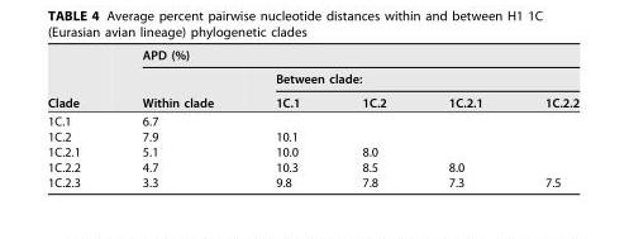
<table><thead><tr><td rowspan="3">Clade</td><td colspan="5">APD (%)</td></tr><tr><td rowspan="2">Within clade</td><td colspan="4">Between clade:</td></tr><tr><td>1C.1</td><td>1C.2</td><td>1C.2.1</td><td>1C.2.2</td></tr></thead><tbody><tr><td>1C.1</td><td>6.7</td><td></td><td></td><td></td><td></td></tr><tr><td>1C.2</td><td>7.9</td><td>10.1</td><td></td><td></td><td></td></tr><tr><td>1C.2.1</td><td>5.1</td><td>10.0</td><td>8.0</td><td></td><td></td></tr><tr><td>1C.2.2</td><td>4.7</td><td>10.3</td><td>8.5</td><td>8.0</td><td></td></tr><tr><td>1C.2.3</td><td>3.3</td><td>9.8</td><td>7.8</td><td>7.3</td><td>7.5</td></tr></tbody></table>